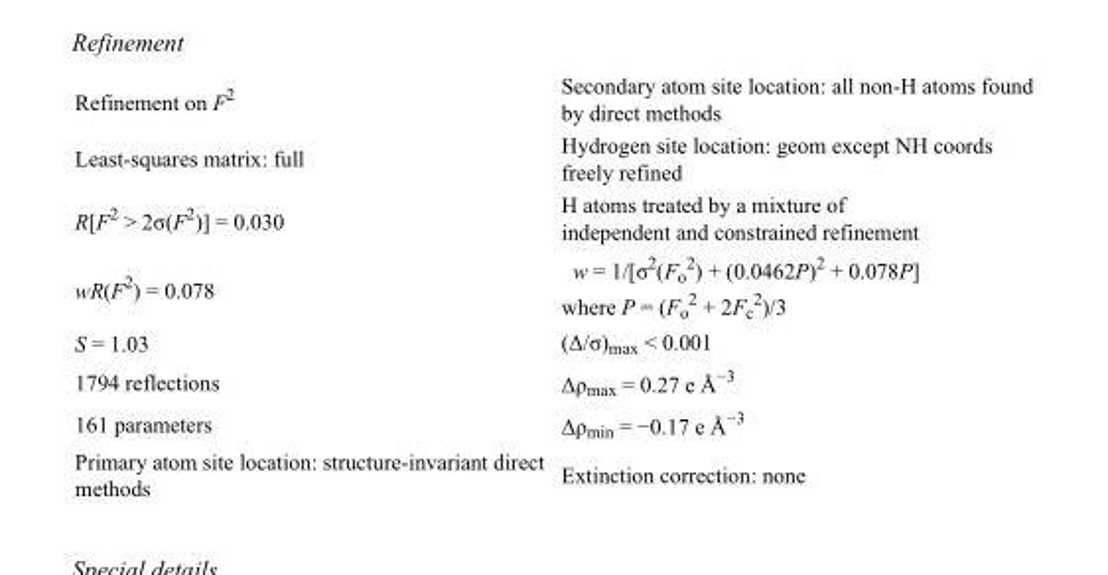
<table><tbody><tr><td>Refinement on F<sup>2</sup></td><td>Secondary atom site location: all non-H atoms found by direct methods</td></tr><tr><td>Least-squares matrix: full</td><td>Hydrogen site location: geom except NH coords freely refined</td></tr><tr><td>R[F<sup>2</sup> &gt; 2σ(F<sup>2</sup>)] = 0.030</td><td>H atoms treated by a mixture of independent and constrained refinement</td></tr><tr><td>wR(F<sup>2</sup>) = 0.078</td><td>w = 1/[σ<sup>2</sup>(F<sub>o</sub> <sup>2</sup>) + (0.0462P)<sup>2</sup> + 0.078P] where P = (F<sub>o</sub> <sup>2</sup> + 2F<sub>c</sub> <sup>2</sup>)/3</td></tr><tr><td>S = 1.03</td><td>(Δ/σ)<sub>max</sub> &lt; 0.001</td></tr><tr><td>1794 reflections</td><td>Δρ<sub>max</sub> = 0.27 e Å<sup>−3</sup></td></tr><tr><td>161 parameters</td><td>Δρ<sub>min</sub> = −0.17 e Å<sup>−3</sup></td></tr><tr><td>Primary atom site location: structure-invariant direct methods</td><td>Extinction correction: none</td></tr></tbody></table>